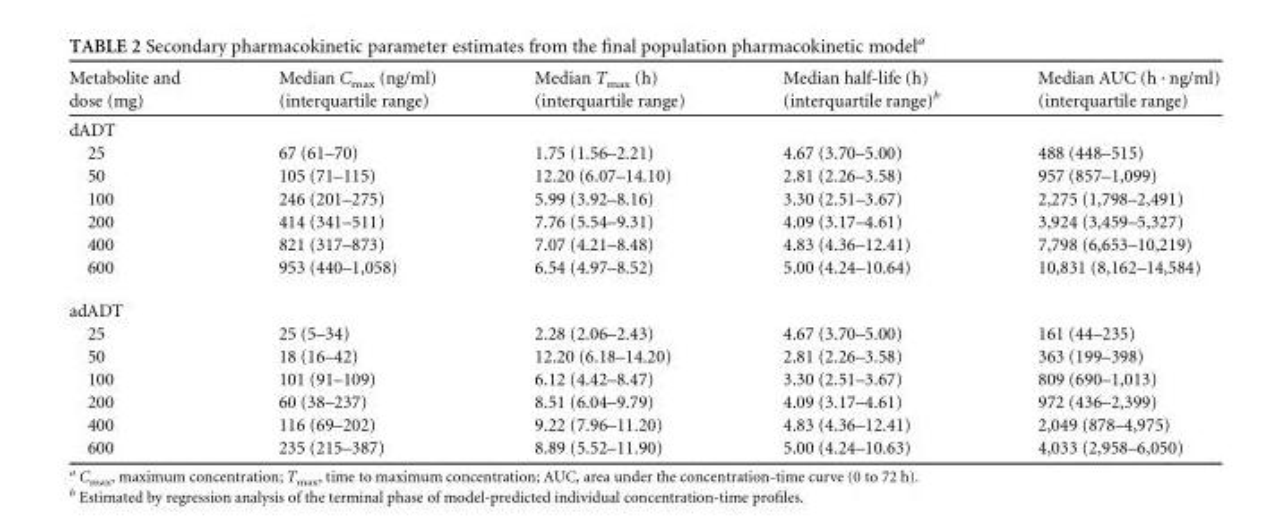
<table><thead><tr><td>Metabolite and dose (mg)</td><td>Median C<sub>max</sub> (ng/ml) (interquartile range)</td><td>Median T<sub>max</sub> (h) (interquartile range)</td><td>Median half-life (h) (interquartile range)<sup>b</sup></td><td>Median AUC (h · ng/ml) (interquartile range)</td></tr></thead><tbody><tr><td colspan="5">dADT</td></tr><tr><td>25</td><td>67 (61–70)</td><td>1.75 (1.56–2.21)</td><td>4.67 (3.70–5.00)</td><td>488 (448–515)</td></tr><tr><td>50</td><td>105 (71–115)</td><td>12.20 (6.07–14.10)</td><td>2.81 (2.26–3.58)</td><td>957 (857–1,099)</td></tr><tr><td>100</td><td>246 (201–275)</td><td>5.99 (3.92–8.16)</td><td>3.30 (2.51–3.67)</td><td>2,275 (1,798–2,491)</td></tr><tr><td>200</td><td>414 (341–511)</td><td>7.76 (5.54–9.31)</td><td>4.09 (3.17–4.61)</td><td>3,924 (3,459–5,327)</td></tr><tr><td>400</td><td>821 (317–873)</td><td>7.07 (4.21–8.48)</td><td>4.83 (4.36–12.41)</td><td>7,798 (6,653–10,219)</td></tr><tr><td>600</td><td>953 (440–1,058)</td><td>6.54 (4.97–8.52)</td><td>5.00 (4.24–10.64)</td><td>10,831 (8,162–14,584)</td></tr><tr><td colspan="5">adADT</td></tr><tr><td>25</td><td>25 (5–34)</td><td>2.28 (2.06–2.43)</td><td>4.67 (3.70–5.00)</td><td>161 (44–235)</td></tr><tr><td>50</td><td>18 (16–42)</td><td>12.20 (6.18–14.20)</td><td>2.81 (2.26–3.58)</td><td>363 (199–398)</td></tr><tr><td>100</td><td>101 (91–109)</td><td>6.12 (4.42–8.47)</td><td>3.30 (2.51–3.67)</td><td>809 (690–1,013)</td></tr><tr><td>200</td><td>60 (38–237)</td><td>8.51 (6.04–9.79)</td><td>4.09 (3.17–4.61)</td><td>972 (436–2,399)</td></tr><tr><td>400</td><td>116 (69–202)</td><td>9.22 (7.96–11.20)</td><td>4.83 (4.36–12.41)</td><td>2,049 (878–4,975)</td></tr><tr><td>600</td><td>235 (215–387)</td><td>8.89 (5.52–11.90)</td><td>5.00 (4.24–10.63)</td><td>4,033 (2,958–6,050)</td></tr></tbody></table>